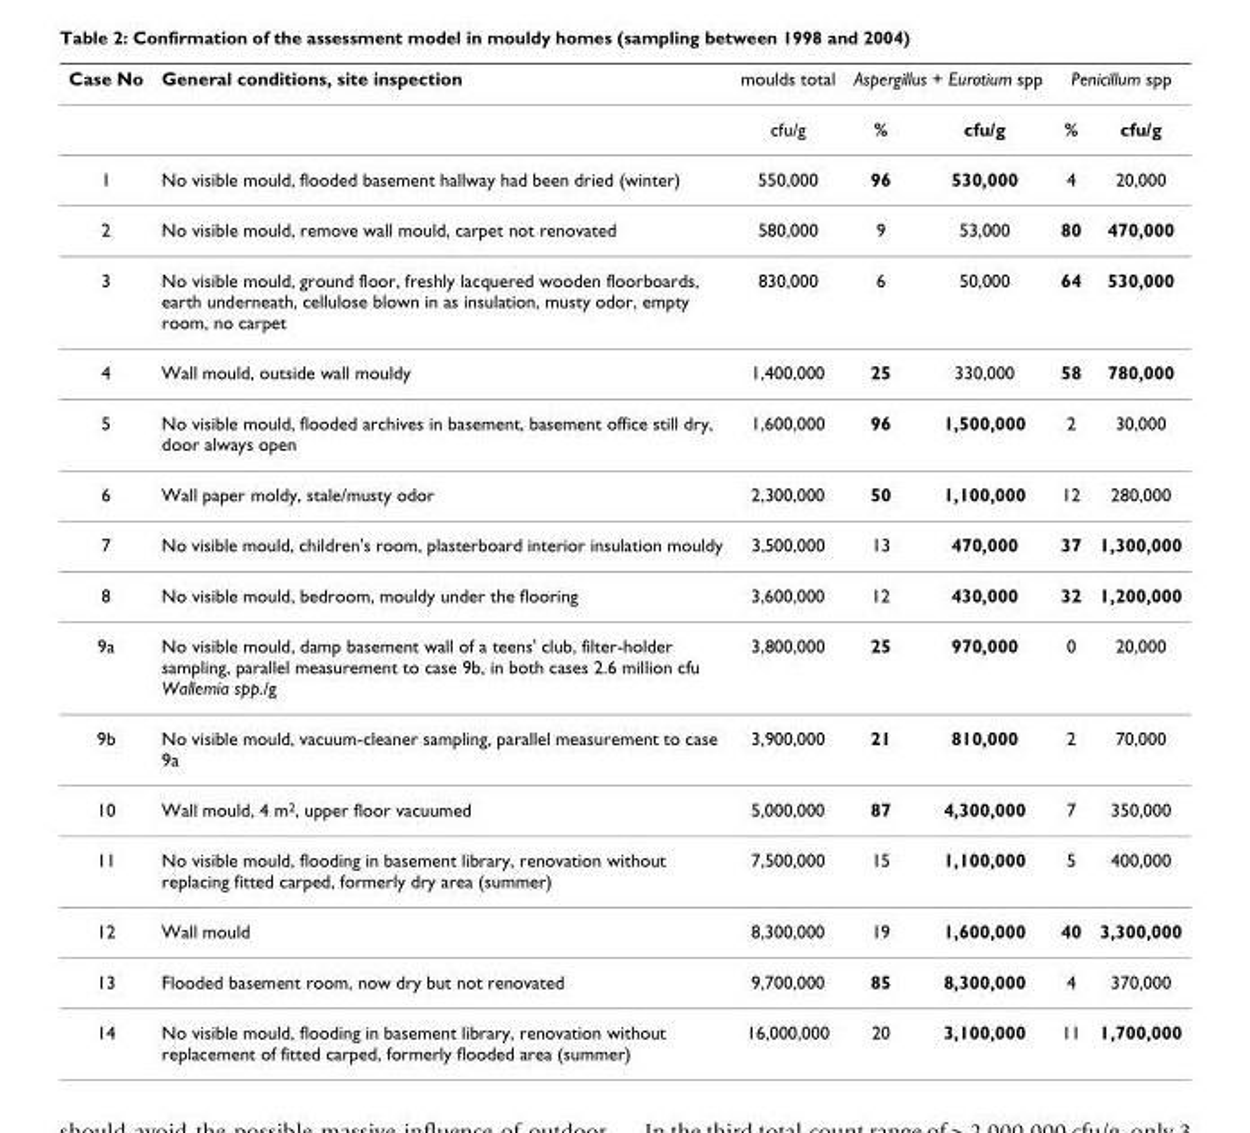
<table><thead><tr><td rowspan="2">Case No</td><td rowspan="2">General conditions, site inspection</td><td rowspan="2">moulds total cfu/g</td><td colspan="2">Aspergillus + Eurotium spp</td><td colspan="2">Penicillum spp</td></tr><tr><td>%</td><td>cfu/g</td><td>%</td><td>cfu/g</td></tr></thead><tbody><tr><td>1</td><td>No visible mould, flooded basement hallway had been dried (winter)</td><td>550,000</td><td>96</td><td>530,000</td><td>4</td><td>20,000</td></tr><tr><td>2</td><td>No visible mould, remove wall mould, carpet not renovated</td><td>580,000</td><td>9</td><td>53,000</td><td>80</td><td>470,000</td></tr><tr><td>3</td><td>No visible mould, ground floor, freshly lacquered wooden floorboards, earth underneath, cellulose blown in as insulation, musty odor, empty room, no carpet</td><td>830,000</td><td>6</td><td>50,000</td><td>64</td><td>530,000</td></tr><tr><td>4</td><td>Wall mould, outside wall mouldy</td><td>1,400,000</td><td>25</td><td>330,000</td><td>58</td><td>780,000</td></tr><tr><td>5</td><td>No visible mould, flooded archives in basement, basement office still dry, door always open</td><td>1,600,000</td><td>96</td><td>1,500,000</td><td>2</td><td>30,000</td></tr><tr><td>6</td><td>Wall paper moldy, stale/musty odor</td><td>2,300,000</td><td>50</td><td>1,100,000</td><td>12</td><td>280,000</td></tr><tr><td>7</td><td>No visible mould, children&#x27;s room, plasterboard interior insulation mouldy</td><td>3,500,000</td><td>13</td><td>470,000</td><td>37</td><td>1,300,000</td></tr><tr><td>8</td><td>No visible mould, bedroom, mouldy under the flooring</td><td>3,600,000</td><td>12</td><td>430,000</td><td>32</td><td>1,200,000</td></tr><tr><td>9a</td><td>No visible mould, damp basement wall of a teens&#x27; club, filter-holder sampling, parallel measurement to case 9b, in both cases 2.6 million cfu Wallemia spp./g</td><td>3,800,000</td><td>25</td><td>970,000</td><td>0</td><td>20,000</td></tr><tr><td>9b</td><td>No visible mould, vacuum-cleaner sampling, parallel measurement to case 9a</td><td>3,900,000</td><td>21</td><td>810,000</td><td>2</td><td>70,000</td></tr><tr><td>10</td><td>Wall mould, 4 m<sup>2</sup>, upper floor vacuumed</td><td>5,000,000</td><td>87</td><td>4,300,000</td><td>7</td><td>350,000</td></tr><tr><td>11</td><td>No visible mould, flooding in basement library, renovation without replacing fitted carped, formerly dry area (summer)</td><td>7,500,000</td><td>15</td><td>1,100,000</td><td>5</td><td>400,000</td></tr><tr><td>12</td><td>Wall mould</td><td>8,300,000</td><td>19</td><td>1,600,000</td><td>40</td><td>3,300,000</td></tr><tr><td>13</td><td>Flooded basement room, now dry but not renovated</td><td>9,700,000</td><td>85</td><td>8,300,000</td><td>4</td><td>370,000</td></tr><tr><td>14</td><td>No visible mould, flooding in basement library, renovation without replacement of fitted carped, formerly flooded area (summer)</td><td>16,000,000</td><td>20</td><td>3,100,000</td><td>11</td><td>1,700,000</td></tr></tbody></table>